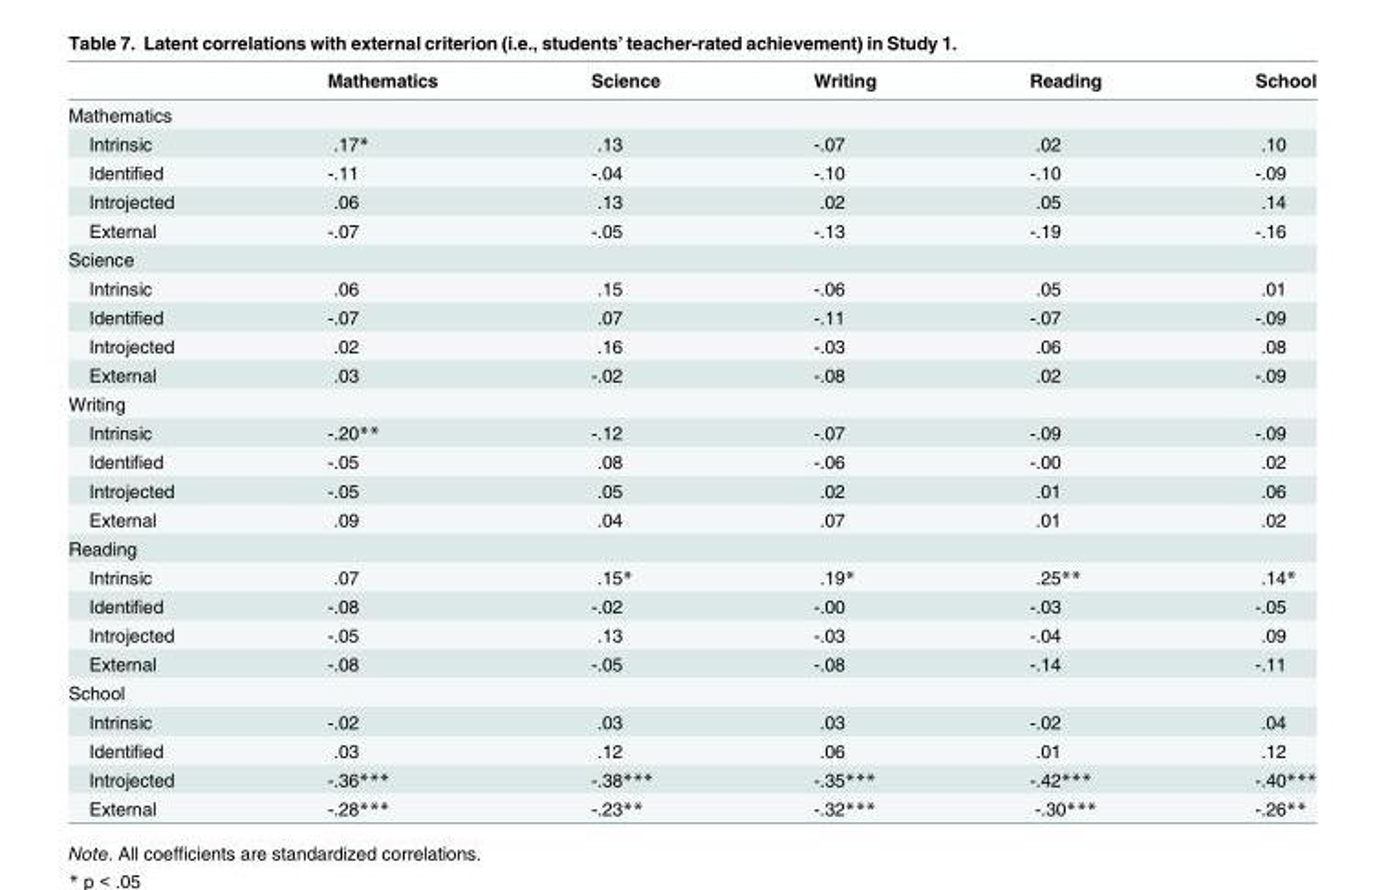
<table><thead><tr><td></td><td>Mathematics</td><td>Science</td><td>Writing</td><td>Reading</td><td>School</td></tr></thead><tbody><tr><td colspan="6">Mathematics</td></tr><tr><td>Intrinsic</td><td>.17*</td><td>.13</td><td>-.07</td><td>.02</td><td>.10</td></tr><tr><td>Identified</td><td>-.11</td><td>-.04</td><td>-.10</td><td>-.10</td><td>-.09</td></tr><tr><td>Introjected</td><td>.06</td><td>.13</td><td>.02</td><td>.05</td><td>.14</td></tr><tr><td>External</td><td>-.07</td><td>-.05</td><td>-.13</td><td>-.19</td><td>-.16</td></tr><tr><td colspan="6">Science</td></tr><tr><td>Intrinsic</td><td>.06</td><td>.15</td><td>-.06</td><td>.05</td><td>.01</td></tr><tr><td>Identified</td><td>-.07</td><td>.07</td><td>-.11</td><td>-.07</td><td>-.09</td></tr><tr><td>Introjected</td><td>.02</td><td>.16</td><td>-.03</td><td>.06</td><td>.08</td></tr><tr><td>External</td><td>.03</td><td>-.02</td><td>-.08</td><td>.02</td><td>-.09</td></tr><tr><td colspan="6">Writing</td></tr><tr><td>Intrinsic</td><td>-.20**</td><td>-.12</td><td>-.07</td><td>-.09</td><td>-.09</td></tr><tr><td>Identified</td><td>-.05</td><td>.08</td><td>-.06</td><td>-.00</td><td>.02</td></tr><tr><td>Introjected</td><td>-.05</td><td>.05</td><td>.02</td><td>.01</td><td>.06</td></tr><tr><td>External</td><td>.09</td><td>.04</td><td>.07</td><td>.01</td><td>.02</td></tr><tr><td colspan="6">Reading</td></tr><tr><td>Intrinsic</td><td>.07</td><td>.15*</td><td>.19*</td><td>.25**</td><td>.14*</td></tr><tr><td>Identified</td><td>-.08</td><td>-.02</td><td>-.00</td><td>-.03</td><td>-.05</td></tr><tr><td>Introjected</td><td>-.05</td><td>.13</td><td>-.03</td><td>-.04</td><td>.09</td></tr><tr><td>External</td><td>-.08</td><td>-.05</td><td>-.08</td><td>-.14</td><td>-.11</td></tr><tr><td colspan="6">School</td></tr><tr><td>Intrinsic</td><td>-.02</td><td>.03</td><td>.03</td><td>-.02</td><td>.04</td></tr><tr><td>Identified</td><td>.03</td><td>.12</td><td>.06</td><td>.01</td><td>.12</td></tr><tr><td>Introjected</td><td>-.36***</td><td>-.38***</td><td>-.35***</td><td>-.42***</td><td>-.40***</td></tr><tr><td>External</td><td>-.28***</td><td>-.23**</td><td>-.32***</td><td>-.30***</td><td>-.26**</td></tr></tbody></table>